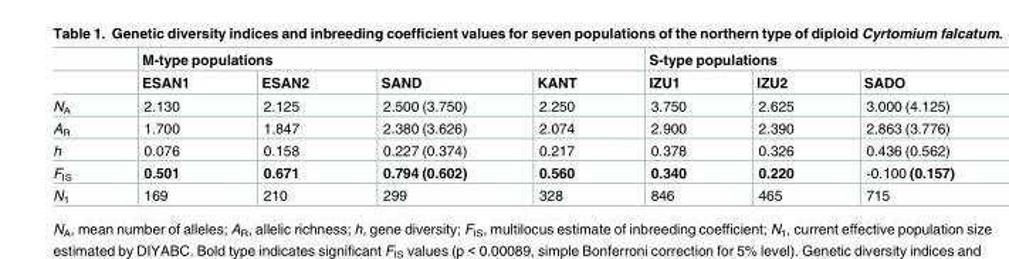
<table><thead><tr><td rowspan="2"></td><td colspan="4">M-type populations</td><td colspan="3">S-type populations</td></tr><tr><td>ESAN1</td><td>ESAN2</td><td>SAND</td><td>KANT</td><td>IZU1</td><td>IZU2</td><td>SADO</td></tr></thead><tbody><tr><td>N<sub>A</sub></td><td>2.130</td><td>2.125</td><td>2.500 (3.750)</td><td>2.250</td><td>3.750</td><td>2.625</td><td>3.000 (4.125)</td></tr><tr><td>A<sub>R</sub></td><td>1.700</td><td>1.847</td><td>2.380 (3.626)</td><td>2.074</td><td>2.900</td><td>2.390</td><td>2.863 (3.776)</td></tr><tr><td>h</td><td>0.076</td><td>0.158</td><td>0.227 (0.374)</td><td>0.217</td><td>0.378</td><td>0.326</td><td>0.436 (0.562)</td></tr><tr><td>F<sub>IS</sub></td><td>0.501</td><td>0.671</td><td>0.794 (0.602)</td><td>0.560</td><td>0.340</td><td>0.220</td><td>-0.100 (0.157)</td></tr><tr><td>N<sub>1</sub></td><td>169</td><td>210</td><td>299</td><td>328</td><td>846</td><td>465</td><td>715</td></tr></tbody></table>